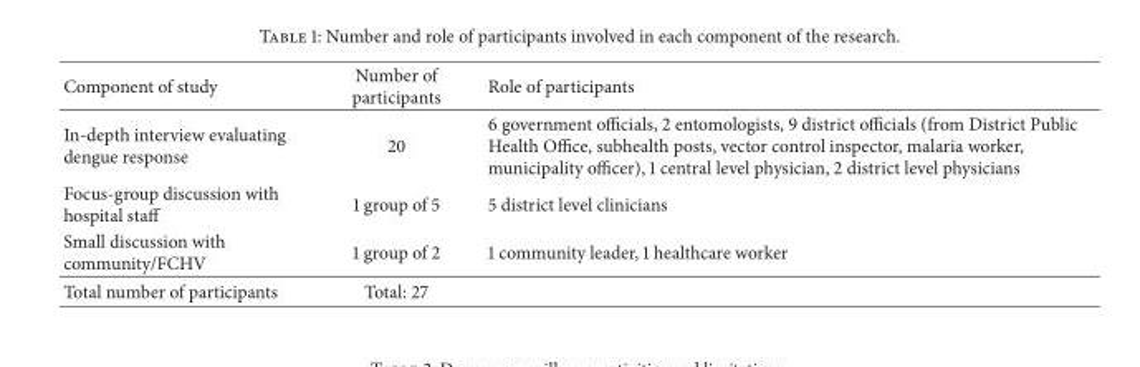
<table><thead><tr><td>Component of study</td><td>Number of participants</td><td>Role of participants</td></tr></thead><tbody><tr><td>In-depth interview evaluating dengue response</td><td>20</td><td>6 government officials, 2 entomologists, 9 district officials (from District Public Health Office, subhealth posts, vector control inspector, malaria worker, municipality officer), 1 central level physician, 2 district level physicians</td></tr><tr><td>Focus-group discussion with hospital staff</td><td>1 group of 5</td><td>5 district level clinicians</td></tr><tr><td>Small discussion with community/FCHV</td><td>1 group of 2</td><td>1 community leader, 1 healthcare worker</td></tr><tr><td>Total number of participants</td><td>Total: 27</td><td></td></tr></tbody></table>